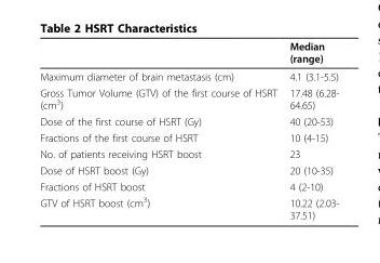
<table><thead><tr><td></td><td>Median (range)</td></tr></thead><tbody><tr><td>Maximum diameter of brain metastasis (cm)</td><td>4.1 (3.1-5.5)</td></tr><tr><td>Gross Tumor Volume (GTV) of the first course of HSRT (cm<sup>3</sup>)</td><td>17.48 (6.28- 64.65)</td></tr><tr><td>Dose of the first course of HSRT (Gy)</td><td>40 (20-53)</td></tr><tr><td>Fractions of the first course of HSRT</td><td>10 (4-15)</td></tr><tr><td>No. of patients receiving HSRT boost</td><td>23</td></tr><tr><td>Dose of HSRT boost (Gy)</td><td>20 (10-35)</td></tr><tr><td>Fractions of HSRT boost</td><td>4 (2-10)</td></tr><tr><td>GTV of HSRT boost (cm<sup>3</sup>)</td><td>10.22 (2.03- 37.51)</td></tr></tbody></table>